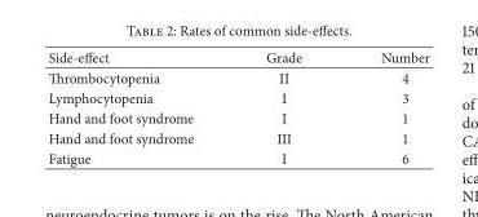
<table><thead><tr><td>Side-effect</td><td>Grade</td><td>Number</td></tr></thead><tbody><tr><td>Thrombocytopenia</td><td>II</td><td>4</td></tr><tr><td>Lymphocytopenia</td><td>I</td><td>3</td></tr><tr><td>Hand and foot syndrome</td><td>I</td><td>1</td></tr><tr><td>Hand and foot syndrome</td><td>III</td><td>1</td></tr><tr><td>Fatigue</td><td>I</td><td>6</td></tr></tbody></table>